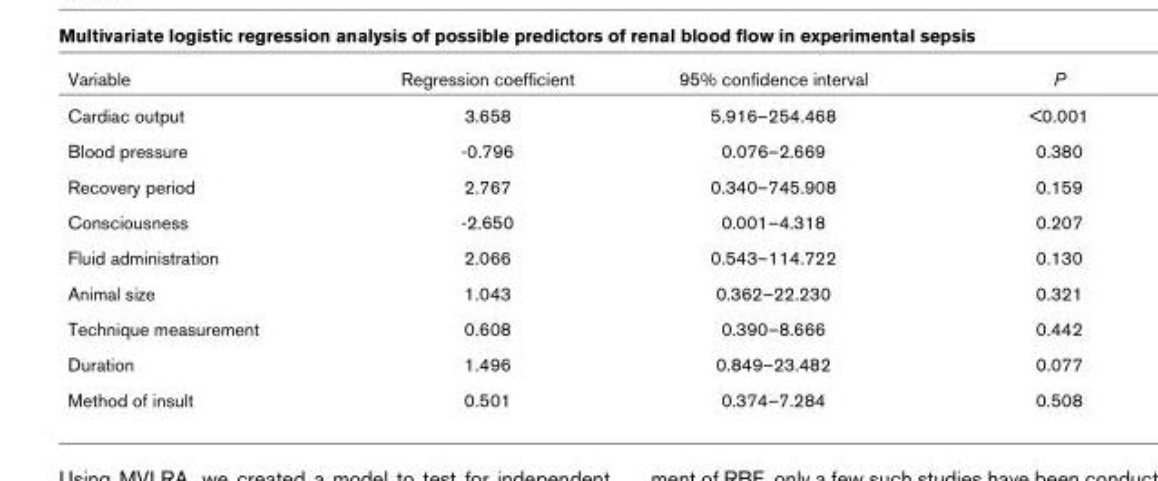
<table><thead><tr><td>Variable</td><td>Regression coefficient</td><td>95% confidence interval</td><td>P</td></tr></thead><tbody><tr><td>Cardiac output</td><td>3.658</td><td>5.916–254.468</td><td>&lt;0.001</td></tr><tr><td>Blood pressure</td><td>-0.796</td><td>0.076–2.669</td><td>0.380</td></tr><tr><td>Recovery period</td><td>2.767</td><td>0.340–745.908</td><td>0.159</td></tr><tr><td>Consciousness</td><td>-2.650</td><td>0.001–4.318</td><td>0.207</td></tr><tr><td>Fluid administration</td><td>2.066</td><td>0.543–114.722</td><td>0.130</td></tr><tr><td>Animal size</td><td>1.043</td><td>0.362–22.230</td><td>0.321</td></tr><tr><td>Technique measurement</td><td>0.608</td><td>0.390–8.666</td><td>0.442</td></tr><tr><td>Duration</td><td>1.496</td><td>0.849–23.482</td><td>0.077</td></tr><tr><td>Method of insult</td><td>0.501</td><td>0.374–7.284</td><td>0.508</td></tr></tbody></table>